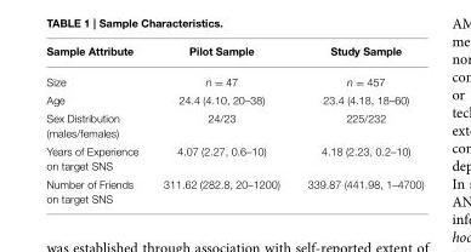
<table><thead><tr><td>Sample Attribute</td><td>Pilot Sample</td><td>Study Sample</td></tr></thead><tbody><tr><td>Size</td><td>n = 47</td><td>n = 457</td></tr><tr><td>Age</td><td>24.4 (4.10, 20–38)</td><td>23.4 (4.18, 18–60)</td></tr><tr><td>Sex Distribution (males/females)</td><td>24/23</td><td>225/232</td></tr><tr><td>Years of Experience on target SNS</td><td>4.07 (2.27, 0.6–10)</td><td>4.18 (2.23, 0.2–10)</td></tr><tr><td>Number of Friends on target SNS</td><td>311.62 (282.8, 20–1200)</td><td>339.87 (441.98, 1–4700)</td></tr></tbody></table>